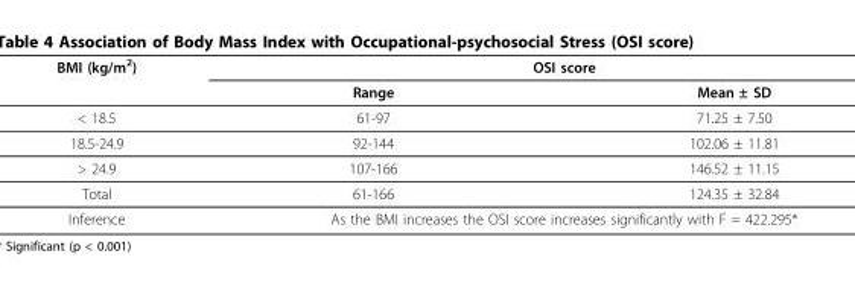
<table><thead><tr><td rowspan="2">BMI (kg/m<sup>2</sup>)</td><td colspan="2">OSI score</td></tr><tr><td>Range</td><td>Mean ± SD</td></tr></thead><tbody><tr><td>&lt; 18.5</td><td>61-97</td><td>71.25 ± 7.50</td></tr><tr><td>18.5-24.9</td><td>92-144</td><td>102.06 ± 11.81</td></tr><tr><td>&gt; 24.9</td><td>107-166</td><td>146.52 ± 11.15</td></tr><tr><td>Total</td><td>61-166</td><td>124.35 ± 32.84</td></tr><tr><td>Inference</td><td colspan="2">As the BMI increases the OSI score increases significantly with F = 422.295*</td></tr></tbody></table>